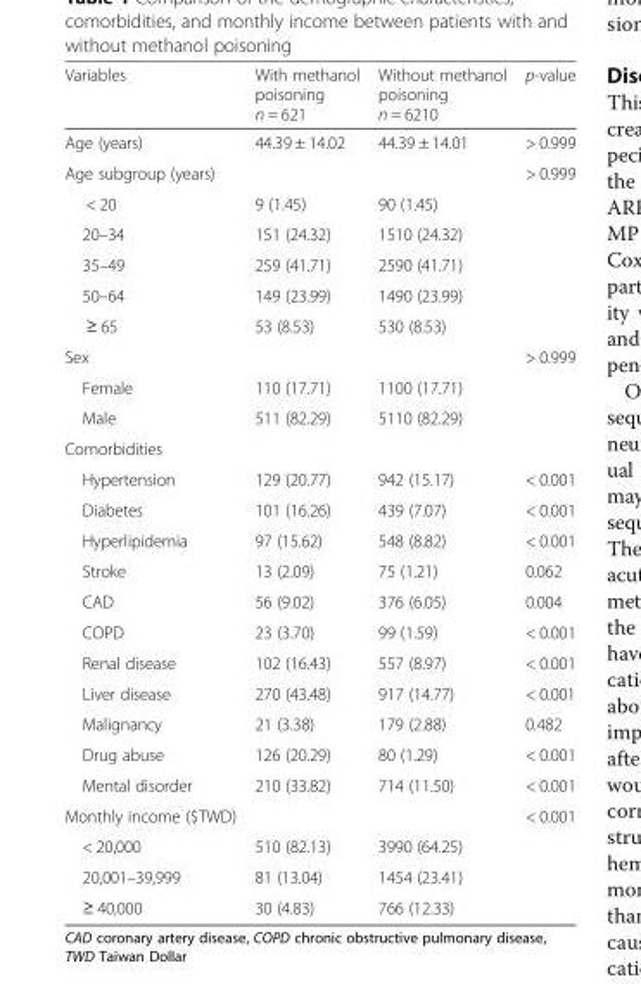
<table><thead><tr><td>Variables</td><td>With methanol poisoning n = 621</td><td>Without methanol poisoning n = 6210</td><td>p-value</td></tr></thead><tbody><tr><td>Age (years)</td><td>44.39 ± 14.02</td><td>44.39 ± 14.01</td><td>&gt; 0.999</td></tr><tr><td>Age subgroup (years)</td><td></td><td></td><td>&gt; 0.999</td></tr><tr><td>&lt; 20</td><td>9 (1.45)</td><td>90 (1.45)</td><td></td></tr><tr><td>20–34</td><td>151 (24.32)</td><td>1510 (24.32)</td><td></td></tr><tr><td>35–49</td><td>259 (41.71)</td><td>2590 (41.71)</td><td></td></tr><tr><td>50–64</td><td>149 (23.99)</td><td>1490 (23.99)</td><td></td></tr><tr><td>≥ 65</td><td>53 (8.53)</td><td>530 (8.53)</td><td></td></tr><tr><td>Sex</td><td></td><td></td><td>&gt; 0.999</td></tr><tr><td>Female</td><td>110 (17.71)</td><td>1100 (17.71)</td><td></td></tr><tr><td>Male</td><td>511 (82.29)</td><td>5110 (82.29)</td><td></td></tr><tr><td colspan="4">Comorbidities</td></tr><tr><td>Hypertension</td><td>129 (20.77)</td><td>942 (15.17)</td><td>&lt; 0.001</td></tr><tr><td>Diabetes</td><td>101 (16.26)</td><td>439 (7.07)</td><td>&lt; 0.001</td></tr><tr><td>Hyperlipidemia</td><td>97 (15.62)</td><td>548 (8.82)</td><td>&lt; 0.001</td></tr><tr><td>Stroke</td><td>13 (2.09)</td><td>75 (1.21)</td><td>0.062</td></tr><tr><td>CAD</td><td>56 (9.02)</td><td>376 (6.05)</td><td>0.004</td></tr><tr><td>COPD</td><td>23 (3.70)</td><td>99 (1.59)</td><td>&lt; 0.001</td></tr><tr><td>Renal disease</td><td>102 (16.43)</td><td>557 (8.97)</td><td>&lt; 0.001</td></tr><tr><td>Liver disease</td><td>270 (43.48)</td><td>917 (14.77)</td><td>&lt; 0.001</td></tr><tr><td>Malignancy</td><td>21 (3.38)</td><td>179 (2.88)</td><td>0.482</td></tr><tr><td>Drug abuse</td><td>126 (20.29)</td><td>80 (1.29)</td><td>&lt; 0.001</td></tr><tr><td>Mental disorder</td><td>210 (33.82)</td><td>714 (11.50)</td><td>&lt; 0.001</td></tr><tr><td>Monthly income ($TWD)</td><td></td><td></td><td>&lt; 0.001</td></tr><tr><td>&lt; 20,000</td><td>510 (82.13)</td><td>3990 (64.25)</td><td></td></tr><tr><td>20,001–39,999</td><td>81 (13.04)</td><td>1454 (23.41)</td><td></td></tr><tr><td>≥ 40,000</td><td>30 (4.83)</td><td>766 (12.33)</td><td></td></tr></tbody></table>